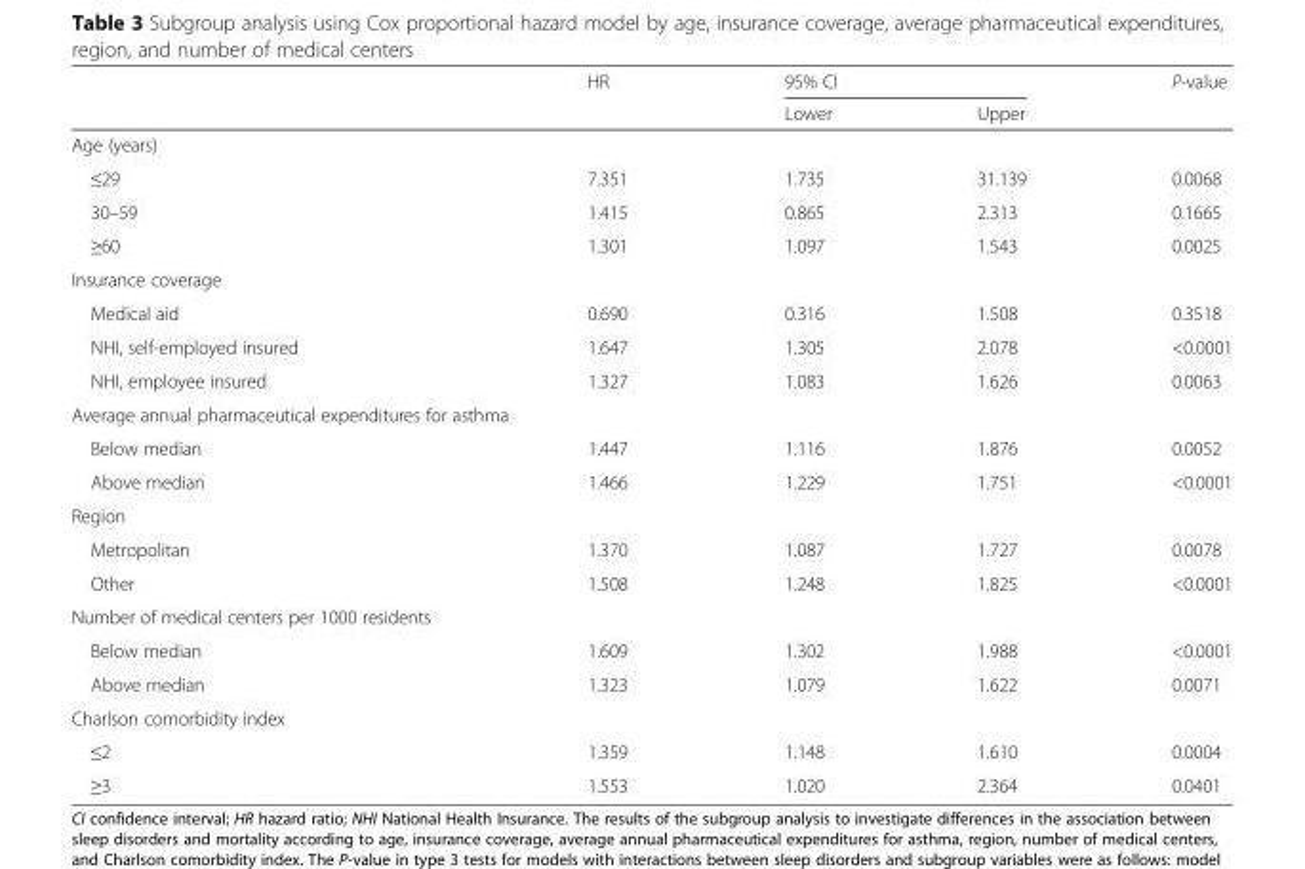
<table><thead><tr><td rowspan="2"></td><td rowspan="2">HR</td><td colspan="2">95% CI</td><td rowspan="2">P-value</td></tr><tr><td>Lower</td><td>Upper</td></tr></thead><tbody><tr><td colspan="5">Age (years)</td></tr><tr><td>≤29</td><td>7.351</td><td>1.735</td><td>31.139</td><td>0.0068</td></tr><tr><td>30–59</td><td>1.415</td><td>0.865</td><td>2.313</td><td>0.1665</td></tr><tr><td>≥60</td><td>1.301</td><td>1.097</td><td>1.543</td><td>0.0025</td></tr><tr><td colspan="5">Insurance coverage</td></tr><tr><td>Medical aid</td><td>0.690</td><td>0.316</td><td>1.508</td><td>0.3518</td></tr><tr><td>NHI, self-employed insured</td><td>1.647</td><td>1.305</td><td>2.078</td><td>&lt;0.0001</td></tr><tr><td>NHI, employee insured</td><td>1.327</td><td>1.083</td><td>1.626</td><td>0.0063</td></tr><tr><td colspan="5">Average annual pharmaceutical expenditures for asthma</td></tr><tr><td>Below median</td><td>1.447</td><td>1.116</td><td>1.876</td><td>0.0052</td></tr><tr><td>Above median</td><td>1.466</td><td>1.229</td><td>1.751</td><td>&lt;0.0001</td></tr><tr><td colspan="5">Region</td></tr><tr><td>Metropolitan</td><td>1.370</td><td>1.087</td><td>1.727</td><td>0.0078</td></tr><tr><td>Other</td><td>1.508</td><td>1.248</td><td>1.825</td><td>&lt;0.0001</td></tr><tr><td colspan="5">Number of medical centers per 1000 residents</td></tr><tr><td>Below median</td><td>1.609</td><td>1.302</td><td>1.988</td><td>&lt;0.0001</td></tr><tr><td>Above median</td><td>1.323</td><td>1.079</td><td>1.622</td><td>0.0071</td></tr><tr><td colspan="5">Charlson comorbidity index</td></tr><tr><td>≤2</td><td>1.359</td><td>1.148</td><td>1.610</td><td>0.0004</td></tr><tr><td>≥3</td><td>1.553</td><td>1.020</td><td>2.364</td><td>0.0401</td></tr></tbody></table>